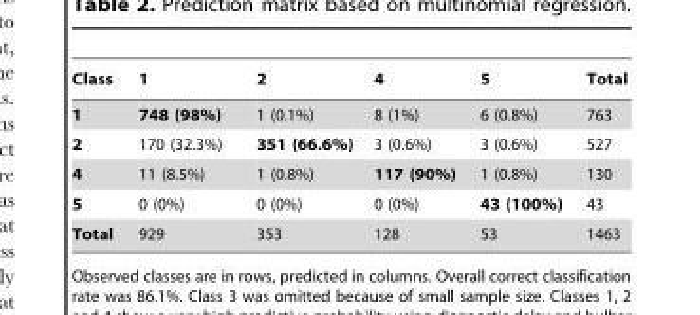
<table><thead><tr><td>Class</td><td>1</td><td>2</td><td>4</td><td>5</td><td>Total</td></tr></thead><tbody><tr><td>1</td><td>748 (98%)</td><td>1 (0.1%)</td><td>8 (1%)</td><td>6 (0.8%)</td><td>763</td></tr><tr><td>2</td><td>170 (32.3%)</td><td>351 (66.6%)</td><td>3 (0.6%)</td><td>3 (0.6%)</td><td>527</td></tr><tr><td>4</td><td>11 (8.5%)</td><td>1 (0.8%)</td><td>117 (90%)</td><td>1 (0.8%)</td><td>130</td></tr><tr><td>5</td><td>0 (0%)</td><td>0 (0%)</td><td>0 (0%)</td><td>43 (100%)</td><td>43</td></tr><tr><td>Total</td><td>929</td><td>353</td><td>128</td><td>53</td><td>1463</td></tr></tbody></table>